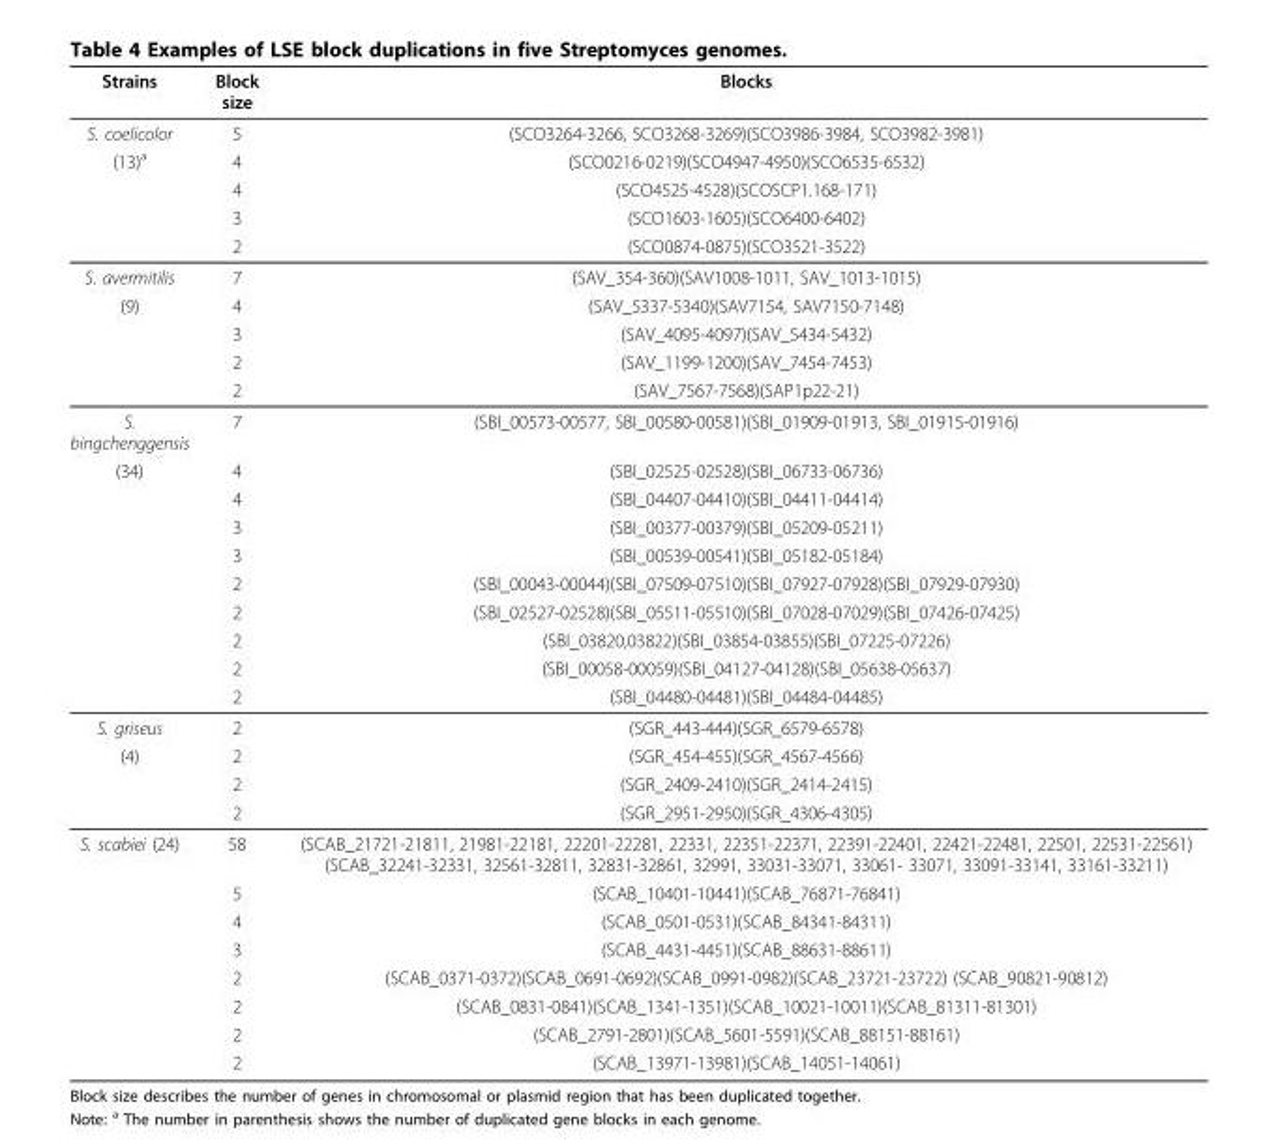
<table><thead><tr><td>Strains</td><td>Block size</td><td>Blocks</td></tr></thead><tbody><tr><td>S. coelicolor</td><td>5</td><td>(SCO3264-3266, SCO3268-3269)(SCO3986-3984, SCO3982-3981)</td></tr><tr><td rowspan="4">(13)<sup>a</sup></td><td>4</td><td>(SCO0216-0219)(SCO4947-4950)(SCO6535-6532)</td></tr><tr><td>4</td><td>(SCO4525-4528)(SCOSCP1.168-171)</td></tr><tr><td>3</td><td>(SCO1603-1605)(SCO6400-6402)</td></tr><tr><td>2</td><td>(SCO0874-0875)(SCO3521-3522)</td></tr><tr><td>S. avermitilis</td><td>7</td><td>(SAV_354-360)(SAV1008-1011, SAV_1013-1015)</td></tr><tr><td rowspan="4">(9)</td><td>4</td><td>(SAV_5337-5340)(SAV7154, SAV7150-7148)</td></tr><tr><td>3</td><td>(SAV_4095-4097)(SAV_5434-5432)</td></tr><tr><td>2</td><td>(SAV_1199-1200)(SAV_7454-7453)</td></tr><tr><td>2</td><td>(SAV_7567-7568)(SAP1p22-21)</td></tr><tr><td>S. bingchenggensis</td><td>7</td><td>(SBI_00573-00577, SBI_00580-00581)(SBI_01909-01913, SBI_01915-01916)</td></tr><tr><td rowspan="9">(34)</td><td>4</td><td>(SBI_02525-02528)(SBI_06733-06736)</td></tr><tr><td>4</td><td>(SBI_04407-04410)(SBI_04411-04414)</td></tr><tr><td>3</td><td>(SBI_00377-00379)(SBI_05209-05211)</td></tr><tr><td>3</td><td>(SBI_00539-00541)(SBI_05182-05184)</td></tr><tr><td>2</td><td>(SBI_00043-00044)(SBI_07509-07510)(SBI_07927-07928)(SBI_07929-07930)</td></tr><tr><td>2</td><td>(SBI_02527-02528)(SBI_05511-05510)(SBI_07028-07029)(SBI_07426-07425)</td></tr><tr><td>2</td><td>(SBI_03820,03822)(SBI_03854-03855)(SBI_07225-07226)</td></tr><tr><td>2</td><td>(SBI_00058-00059)(SBI_04127-04128)(SBI_05638-05637)</td></tr><tr><td>2</td><td>(SBI_04480-04481)(SBI_04484-04485)</td></tr><tr><td>S. griseus</td><td>2</td><td>(SGR_443-444)(SGR_6579-6578)</td></tr><tr><td rowspan="3">(4)</td><td>2</td><td>(SGR_454-455)(SGR_4567-4566)</td></tr><tr><td>2</td><td>(SGR_2409-2410)(SGR_2414-2415)</td></tr><tr><td>2</td><td>(SGR_2951-2950)(SGR_4306-4305)</td></tr><tr><td rowspan="8">S. scabiei (24)</td><td>58</td><td>(SCAB_21721-21811, 21981-22181, 22201-22281, 22331, 22351-22371, 22391-22401, 22421-22481, 22501, 22531-22561) (SCAB_32241-32331, 32561-32811, 32831-32861, 32991, 33031-33071, 33061- 33071, 33091-33141, 33161-33211)</td></tr><tr><td>5</td><td>(SCAB_10401-10441)(SCAB_76871-76841)</td></tr><tr><td>4</td><td>(SCAB_0501-0531)(SCAB_84341-84311)</td></tr><tr><td>3</td><td>(SCAB_4431-4451)(SCAB_88631-88611)</td></tr><tr><td>2</td><td>(SCAB_0371-0372)(SCAB_0691-0692)(SCAB_0991-0982)(SCAB_23721-23722) (SCAB_90821-90812)</td></tr><tr><td>2</td><td>(SCAB_0831-0841)(SCAB_1341-1351)(SCAB_10021-10011)(SCAB_81311-81301)</td></tr><tr><td>2</td><td>(SCAB_2791-2801)(SCAB_5601-5591)(SCAB_88151-88161)</td></tr><tr><td>2</td><td>(SCAB_13971-13981)(SCAB_14051-14061)</td></tr></tbody></table>